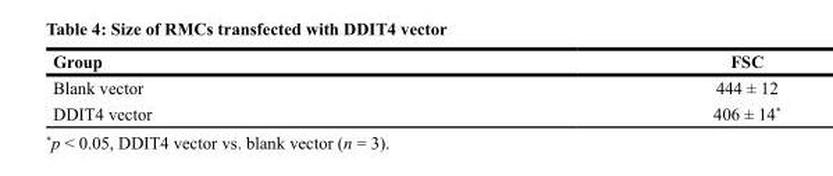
<table><thead><tr><td>Group</td><td>FSC</td></tr></thead><tbody><tr><td>Blank vector</td><td>444 ± 12</td></tr><tr><td>DDIT4 vector</td><td>406 ± 14*</td></tr></tbody></table>